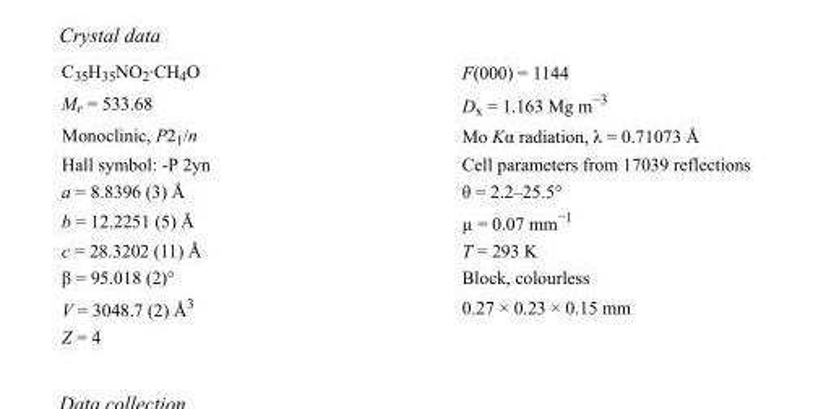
<table><tbody><tr><td>C<sub>35</sub>H<sub>35</sub>NO<sub>2</sub>·CH<sub>4</sub>O</td><td>F(000) = 1144</td></tr><tr><td>M<sub>r</sub> = 533.68</td><td>D<sub>x</sub> = 1.163 Mg m<sup>−3</sup></td></tr><tr><td>Monoclinic, P2<sub>1</sub>/n</td><td>Mo Kα radiation, λ = 0.71073 Å</td></tr><tr><td>Hall symbol: -P 2yn</td><td>Cell parameters from 17039 reflections</td></tr><tr><td>a = 8.8396 (3) Å</td><td>θ = 2.2–25.5°</td></tr><tr><td>b = 12.2251 (5) Å</td><td>µ = 0.07 mm<sup>−1</sup></td></tr><tr><td>c = 28.3202 (11) Å</td><td>T = 293 K</td></tr><tr><td>β = 95.018 (2)°</td><td>Block, colourless</td></tr><tr><td>V = 3048.7 (2) Å<sup>3</sup></td><td>0.27 × 0.23 × 0.15 mm</td></tr><tr><td>Z = 4</td><td></td></tr></tbody></table>